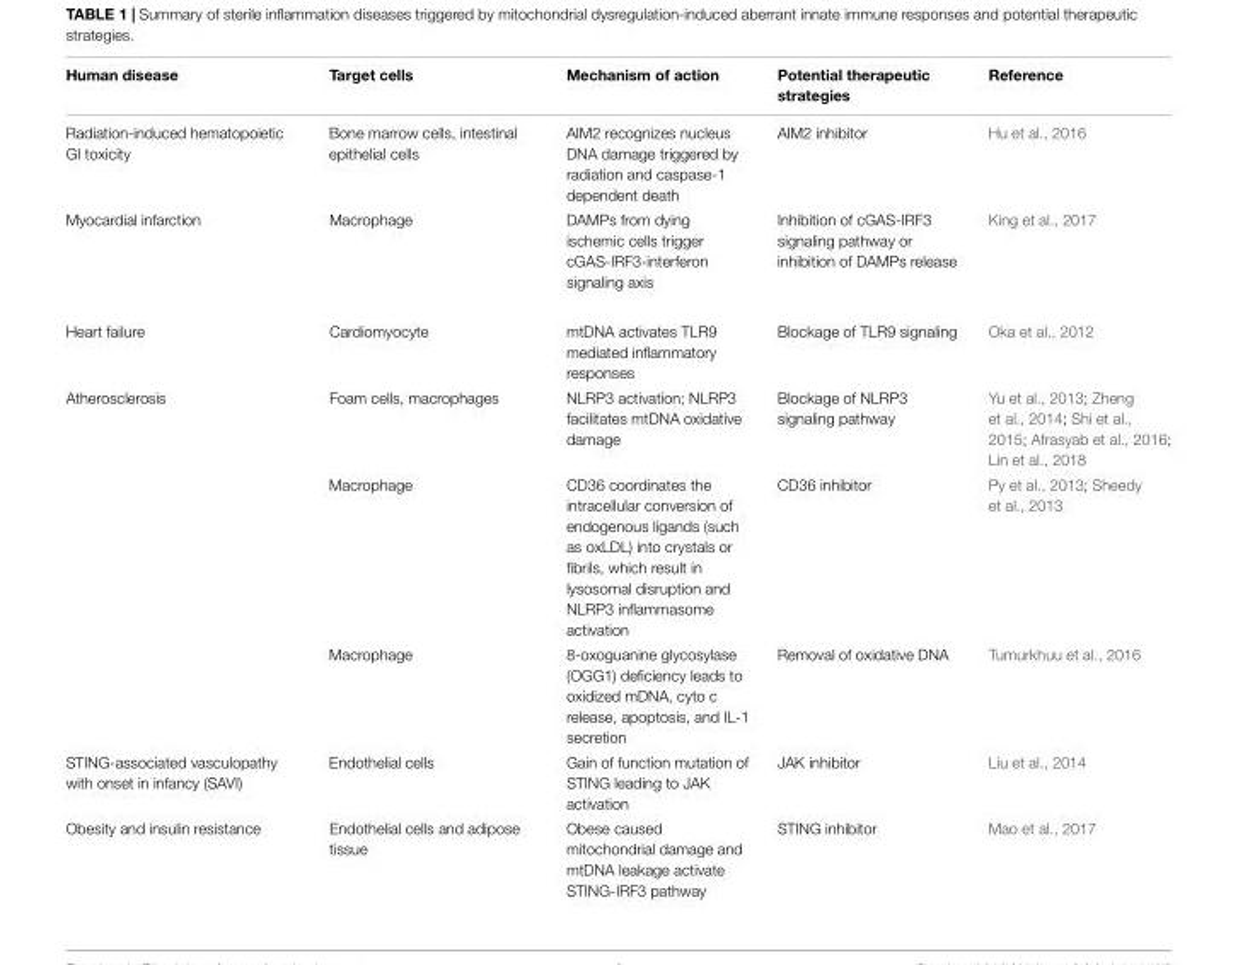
<table><thead><tr><td>Human disease</td><td>Target cells</td><td>Mechanism of action</td><td>Potential therapeutic strategies</td><td>Reference</td></tr></thead><tbody><tr><td>Radiation-induced hematopoietic GI toxicity</td><td>Bone marrow cells, intestinal epithelial cells</td><td>AIM2 recognizes nucleus DNA damage triggered by radiation and caspase-1 dependent death</td><td>AIM2 inhibitor</td><td>Hu et al., 2016</td></tr><tr><td>Myocardial infarction</td><td>Macrophage</td><td>DAMPs from dying ischemic cells trigger cGAS-IRF3-interferon signaling axis</td><td>Inhibition of cGAS-IRF3 signaling pathway or inhibition of DAMPs release</td><td>King et al., 2017</td></tr><tr><td>Heart failure</td><td>Cardiomyocyte</td><td>mtDNA activates TLR9 mediated inflammatory responses</td><td>Blockage of TLR9 signaling</td><td>Oka et al., 2012</td></tr><tr><td rowspan="3">Atherosclerosis</td><td>Foam cells, macrophages</td><td>NLRP3 activation; NLRP3 facilitates mtDNA oxidative damage</td><td>Blockage of NLRP3 signaling pathway</td><td>Yu et al., 2013; Zheng et al., 2014; Shi et al., 2015; Afrasyab et al., 2016; Lin et al., 2018</td></tr><tr><td>Macrophage</td><td>CD36 coordinates the intracellular conversion of endogenous ligands (such as oxLDL) into crystals or fibrils, which result in lysosomal disruption and NLRP3 inflammasome activation</td><td>CD36 inhibitor</td><td>Py et al., 2013; Sheedy et al., 2013</td></tr><tr><td>Macrophage</td><td>8-oxoguanine glycosylase (OGG1) deficiency leads to oxidized mDNA, cyto c release, apoptosis, and IL-1 secretion</td><td>Removal of oxidative DNA</td><td>Tumurkhuu et al., 2016</td></tr><tr><td>STING-associated vasculopathy with onset in infancy (SAVI)</td><td>Endothelial cells</td><td>Gain of function mutation of STING leading to JAK activation</td><td>JAK inhibitor</td><td>Liu et al., 2014</td></tr><tr><td>Obesity and insulin resistance</td><td>Endothelial cells and adipose tissue</td><td>Obese caused mitochondrial damage and mtDNA leakage activate STING-IRF3 pathway</td><td>STING inhibitor</td><td>Mao et al., 2017</td></tr></tbody></table>